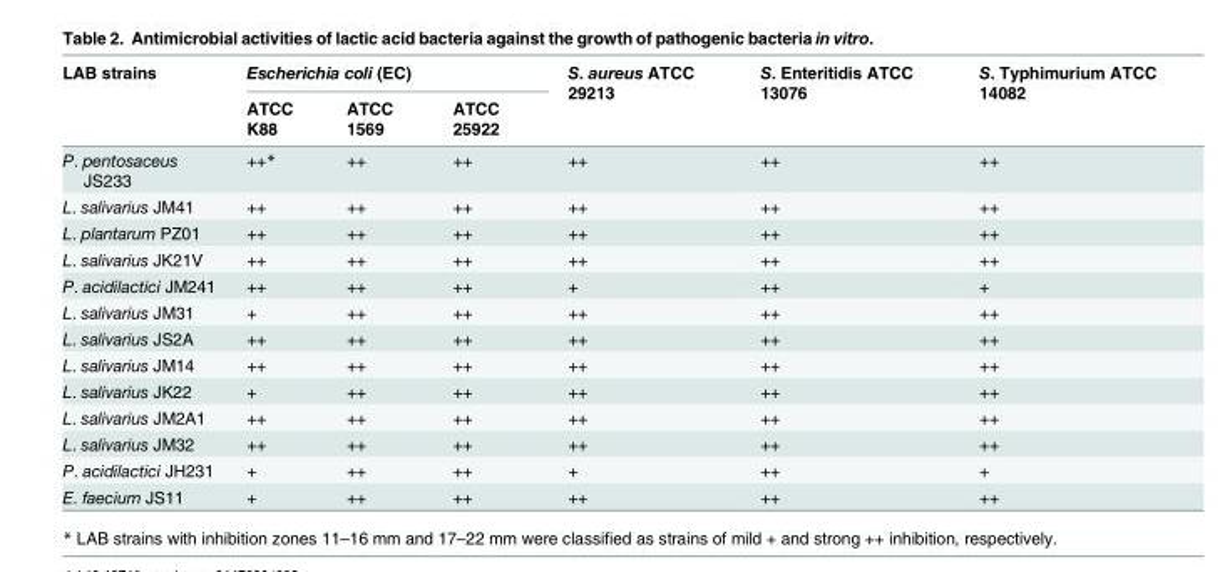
<table><thead><tr><td rowspan="2">LAB strains</td><td colspan="3">Escherichia coli (EC)</td><td rowspan="2">S. aureus ATCC 29213</td><td rowspan="2">S. Enteritidis ATCC 13076</td><td rowspan="2">S. Typhimurium ATCC 14082</td></tr><tr><td>ATCC K88</td><td>ATCC 1569</td><td>ATCC 25922</td></tr></thead><tbody><tr><td>P. pentosaceus JS233</td><td>++*</td><td>++</td><td>++</td><td>++</td><td>++</td><td>++</td></tr><tr><td>L. salivarius JM41</td><td>++</td><td>++</td><td>++</td><td>++</td><td>++</td><td>++</td></tr><tr><td>L. plantarum PZ01</td><td>++</td><td>++</td><td>++</td><td>++</td><td>++</td><td>++</td></tr><tr><td>L. salivarius JK21V</td><td>++</td><td>++</td><td>++</td><td>++</td><td>++</td><td>++</td></tr><tr><td>P. acidilactici JM241</td><td>++</td><td>++</td><td>++</td><td>+</td><td>++</td><td>+</td></tr><tr><td>L. salivarius JM31</td><td>+</td><td>++</td><td>++</td><td>++</td><td>++</td><td>++</td></tr><tr><td>L. salivarius JS2A</td><td>++</td><td>++</td><td>++</td><td>++</td><td>++</td><td>++</td></tr><tr><td>L. salivarius JM14</td><td>++</td><td>++</td><td>++</td><td>++</td><td>++</td><td>++</td></tr><tr><td>L. salivarius JK22</td><td>+</td><td>++</td><td>++</td><td>++</td><td>++</td><td>++</td></tr><tr><td>L. salivarius JM2A1</td><td>++</td><td>++</td><td>++</td><td>++</td><td>++</td><td>++</td></tr><tr><td>L. salivarius JM32</td><td>++</td><td>++</td><td>++</td><td>++</td><td>++</td><td>++</td></tr><tr><td>P. acidilactici JH231</td><td>+</td><td>++</td><td>++</td><td>+</td><td>++</td><td>+</td></tr><tr><td>E. faecium JS11</td><td>+</td><td>++</td><td>++</td><td>++</td><td>++</td><td>++</td></tr></tbody></table>